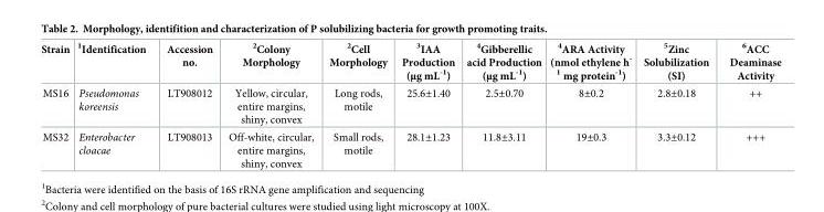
<table><thead><tr><td>Strain</td><td><sup>1</sup>Identification</td><td>Accession no.</td><td><sup>2</sup>Colony Morphology</td><td><sup>2</sup>Cell Morphology</td><td><sup>3</sup>IAA Production (μg mL<sup>-1</sup>)</td><td><sup>4</sup>Gibberellic acid Production (μg mL<sup>-1</sup>)</td><td><sup>4</sup>ARA Activity (nmol ethylene h<sup>- 1</sup> mg protein<sup>-1</sup>)</td><td><sup>5</sup>Zinc Solubilization (SI)</td><td><sup>6</sup>ACC Deaminase Activity</td></tr></thead><tbody><tr><td>MS16</td><td>Pseudomonas koreensis</td><td>LT908012</td><td>Yellow, circular, entire margins, shiny, convex</td><td>Long rods, motile</td><td>25.6±1.40</td><td>2.5±0.70</td><td>8±0.2</td><td>2.8±0.18</td><td>++</td></tr><tr><td>MS32</td><td>Enterobacter cloacae</td><td>LT908013</td><td>Off-white, circular, entire margins, shiny, convex</td><td>Small rods, motile</td><td>28.1±1.23</td><td>11.8±3.11</td><td>19±0.3</td><td>3.3±0.12</td><td>+++</td></tr></tbody></table>